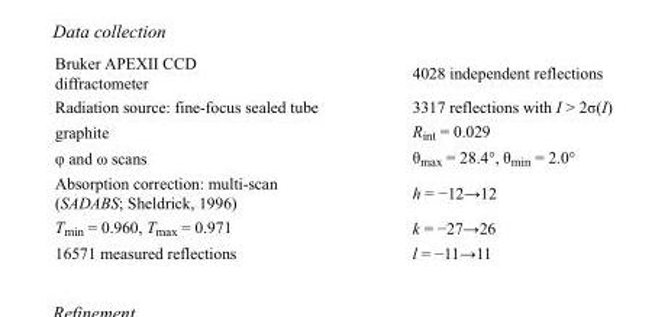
<table><tbody><tr><td>Bruker APEXII CCD diffractometer</td><td>4028 independent reflections</td></tr><tr><td>Radiation source: fine-focus sealed tube</td><td>3317 reflections with I &gt; 2σ(I)</td></tr><tr><td>graphite</td><td>R<sub>int</sub> = 0.029</td></tr><tr><td>φ and ω scans</td><td>θ<sub>max</sub> = 28.4°, θ<sub>min</sub> = 2.0°</td></tr><tr><td>Absorption correction: multi-scan (SADABS; Sheldrick, 1996)</td><td>h = −12→12</td></tr><tr><td>T<sub>min</sub> = 0.960, T<sub>max</sub> = 0.971</td><td>k = −27→26</td></tr><tr><td>16571 measured reflections</td><td>l = −11→11</td></tr></tbody></table>